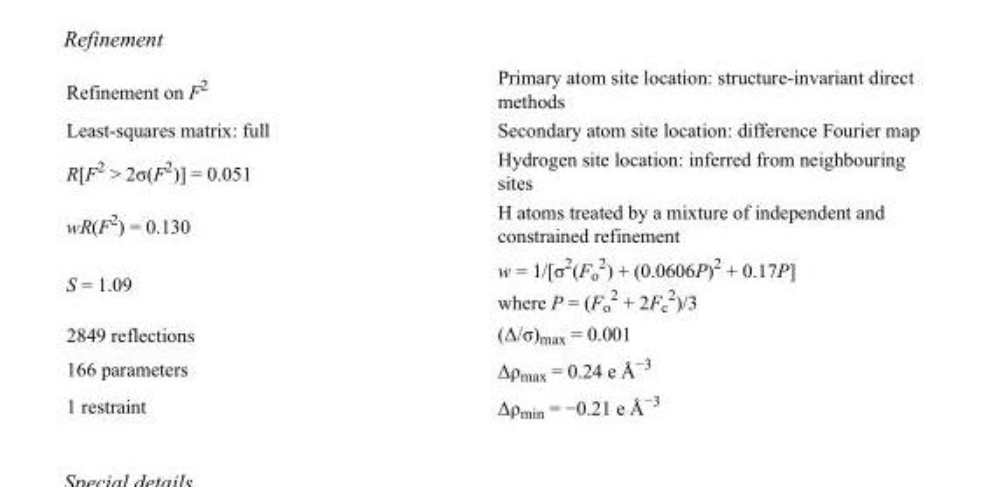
<table><tbody><tr><td>Refinement on F<sup>2</sup></td><td>Primary atom site location: structure-invariant direct methods</td></tr><tr><td>Least-squares matrix: full</td><td>Secondary atom site location: difference Fourier map</td></tr><tr><td>R[F<sup>2</sup> &gt; 2σ(F<sup>2</sup>)] = 0.051</td><td>Hydrogen site location: inferred from neighbouring sites</td></tr><tr><td>wR(F<sup>2</sup>) = 0.130</td><td>H atoms treated by a mixture of independent and constrained refinement</td></tr><tr><td>S = 1.09</td><td>w = 1/[σ<sup>2</sup>(F<sub>o</sub> <sup>2</sup>) + (0.0606P)<sup>2</sup> + 0.17P] where P = (F<sub>o</sub> <sup>2</sup> + 2F<sub>c</sub> <sup>2</sup>)/3</td></tr><tr><td>2849 reflections</td><td>(Δ/σ)<sub>max</sub> = 0.001</td></tr><tr><td>166 parameters</td><td>Δρ<sub>max</sub> = 0.24 e Å<sup>−3</sup></td></tr><tr><td>1 restraint</td><td>Δρ<sub>min</sub> = −0.21 e Å<sup>−3</sup></td></tr></tbody></table>